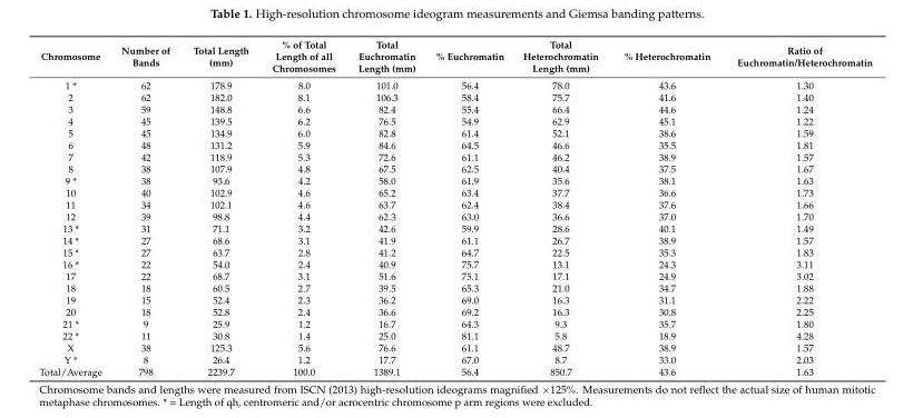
<table><thead><tr><td>Chromosome</td><td>Number of Bands</td><td>Total Length (mm)</td><td>% of Total Length of all Chromosomes</td><td>Total Euchromatin Length (mm)</td><td>% Euchromatin</td><td>Total Heterochromatin Length (mm)</td><td>% Heterochromatin</td><td>Ratio of Euchromatin/Heterochromatin</td></tr></thead><tbody><tr><td>1 *</td><td>62</td><td>178.9</td><td>8.0</td><td>101.0</td><td>56.4</td><td>78.0</td><td>43.6</td><td>1.30</td></tr><tr><td>2</td><td>62</td><td>182.0</td><td>8.1</td><td>106.3</td><td>58.4</td><td>75.7</td><td>41.6</td><td>1.40</td></tr><tr><td>3</td><td>59</td><td>148.8</td><td>6.6</td><td>82.4</td><td>55.4</td><td>66.4</td><td>44.6</td><td>1.24</td></tr><tr><td>4</td><td>45</td><td>139.5</td><td>6.2</td><td>76.5</td><td>54.9</td><td>62.9</td><td>45.1</td><td>1.22</td></tr><tr><td>5</td><td>45</td><td>134.9</td><td>6.0</td><td>82.8</td><td>61.4</td><td>52.1</td><td>38.6</td><td>1.59</td></tr><tr><td>6</td><td>48</td><td>131.2</td><td>5.9</td><td>84.6</td><td>64.5</td><td>46.6</td><td>35.5</td><td>1.81</td></tr><tr><td>7</td><td>42</td><td>118.9</td><td>5.3</td><td>72.6</td><td>61.1</td><td>46.2</td><td>38.9</td><td>1.57</td></tr><tr><td>8</td><td>38</td><td>107.9</td><td>4.8</td><td>67.5</td><td>62.5</td><td>40.4</td><td>37.5</td><td>1.67</td></tr><tr><td>9 *</td><td>38</td><td>93.6</td><td>4.2</td><td>58.0</td><td>61.9</td><td>35.6</td><td>38.1</td><td>1.63</td></tr><tr><td>10</td><td>40</td><td>102.9</td><td>4.6</td><td>65.2</td><td>63.4</td><td>37.7</td><td>36.6</td><td>1.73</td></tr><tr><td>11</td><td>34</td><td>102.1</td><td>4.6</td><td>63.7</td><td>62.4</td><td>38.4</td><td>37.6</td><td>1.66</td></tr><tr><td>12</td><td>39</td><td>98.8</td><td>4.4</td><td>62.3</td><td>63.0</td><td>36.6</td><td>37.0</td><td>1.70</td></tr><tr><td>13 *</td><td>31</td><td>71.1</td><td>3.2</td><td>42.6</td><td>59.9</td><td>28.6</td><td>40.1</td><td>1.49</td></tr><tr><td>14 *</td><td>27</td><td>68.6</td><td>3.1</td><td>41.9</td><td>61.1</td><td>26.7</td><td>38.9</td><td>1.57</td></tr><tr><td>15 *</td><td>27</td><td>63.7</td><td>2.8</td><td>41.2</td><td>64.7</td><td>22.5</td><td>35.3</td><td>1.83</td></tr><tr><td>16 *</td><td>22</td><td>54.0</td><td>2.4</td><td>40.9</td><td>75.7</td><td>13.1</td><td>24.3</td><td>3.11</td></tr><tr><td>17</td><td>22</td><td>68.7</td><td>3.1</td><td>51.6</td><td>75.1</td><td>17.1</td><td>24.9</td><td>3.02</td></tr><tr><td>18</td><td>18</td><td>60.5</td><td>2.7</td><td>39.5</td><td>65.3</td><td>21.0</td><td>34.7</td><td>1.88</td></tr><tr><td>19</td><td>15</td><td>52.4</td><td>2.3</td><td>36.2</td><td>69.0</td><td>16.3</td><td>31.1</td><td>2.22</td></tr><tr><td>20</td><td>18</td><td>52.8</td><td>2.4</td><td>36.6</td><td>69.2</td><td>16.3</td><td>30.8</td><td>2.25</td></tr><tr><td>21 *</td><td>9</td><td>25.9</td><td>1.2</td><td>16.7</td><td>64.3</td><td>9.3</td><td>35.7</td><td>1.80</td></tr><tr><td>22 *</td><td>11</td><td>30.8</td><td>1.4</td><td>25.0</td><td>81.1</td><td>5.8</td><td>18.9</td><td>4.28</td></tr><tr><td>X</td><td>38</td><td>125.3</td><td>5.6</td><td>76.6</td><td>61.1</td><td>48.7</td><td>38.9</td><td>1.57</td></tr><tr><td>Y *</td><td>8</td><td>26.4</td><td>1.2</td><td>17.7</td><td>67.0</td><td>8.7</td><td>33.0</td><td>2.03</td></tr><tr><td>Total/Average</td><td>798</td><td>2239.7</td><td>100.0</td><td>1389.1</td><td>56.4</td><td>850.7</td><td>43.6</td><td>1.63</td></tr></tbody></table>